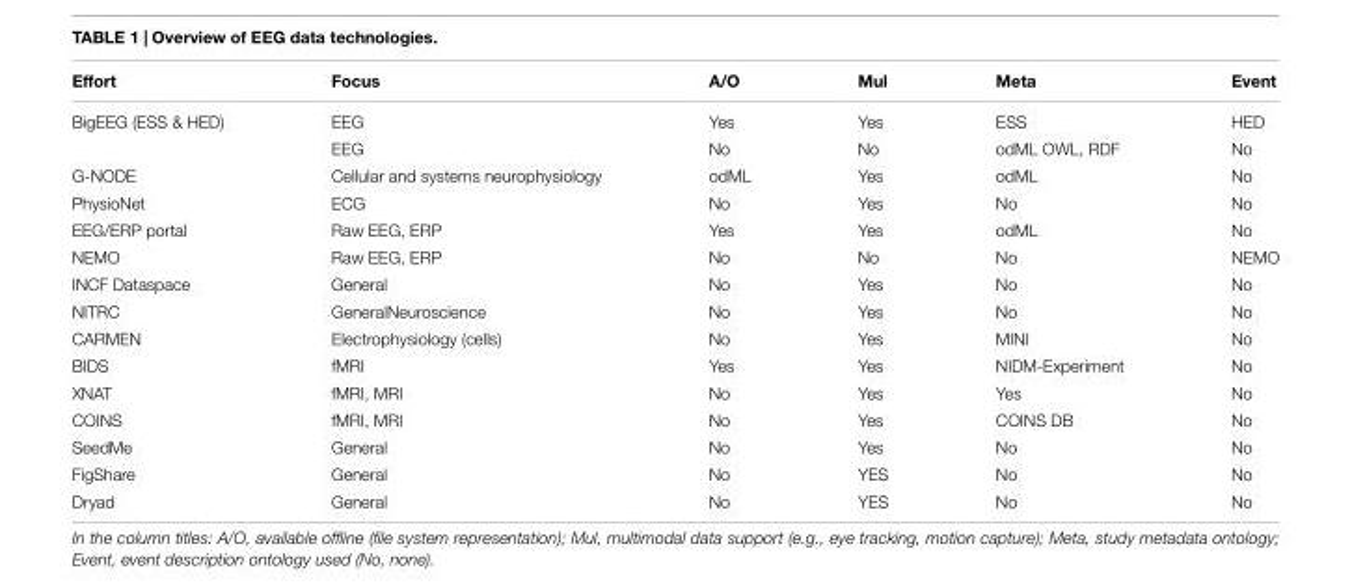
<table><thead><tr><td>Effort</td><td>Focus</td><td>A/O</td><td>Mul</td><td>Meta</td><td>Event</td></tr></thead><tbody><tr><td rowspan="2">BigEEG (ESS &amp; HED)</td><td>EEG</td><td>Yes</td><td>Yes</td><td>ESS</td><td>HED</td></tr><tr><td>EEG</td><td>No</td><td>No</td><td>odML OWL, RDF</td><td>No</td></tr><tr><td>G-NODE</td><td>Cellular and systems neurophysiology</td><td>odML</td><td>Yes</td><td>odML</td><td>No</td></tr><tr><td>PhysioNet</td><td>ECG</td><td>No</td><td>Yes</td><td>No</td><td>No</td></tr><tr><td>EEG/ERP portal</td><td>Raw EEG, ERP</td><td>Yes</td><td>Yes</td><td>odML</td><td>No</td></tr><tr><td>NEMO</td><td>Raw EEG, ERP</td><td>No</td><td>No</td><td>No</td><td>NEMO</td></tr><tr><td>INCF Dataspace</td><td>General</td><td>No</td><td>Yes</td><td>No</td><td>No</td></tr><tr><td>NITRC</td><td>GeneralNeuroscience</td><td>No</td><td>Yes</td><td>No</td><td>No</td></tr><tr><td>CARMEN</td><td>Electrophysiology (cells)</td><td>No</td><td>Yes</td><td>MINI</td><td>No</td></tr><tr><td>BIDS</td><td>fMRI</td><td>Yes</td><td>Yes</td><td>NIDM-Experiment</td><td>No</td></tr><tr><td>XNAT</td><td>fMRI, MRI</td><td>No</td><td>Yes</td><td>Yes</td><td>No</td></tr><tr><td>COINS</td><td>fMRI, MRI</td><td>No</td><td>Yes</td><td>COINS DB</td><td>No</td></tr><tr><td>SeedMe</td><td>General</td><td>No</td><td>Yes</td><td>No</td><td>No</td></tr><tr><td>FigShare</td><td>General</td><td>No</td><td>YES</td><td>No</td><td>No</td></tr><tr><td>Dryad</td><td>General</td><td>No</td><td>YES</td><td>No</td><td>No</td></tr></tbody></table>